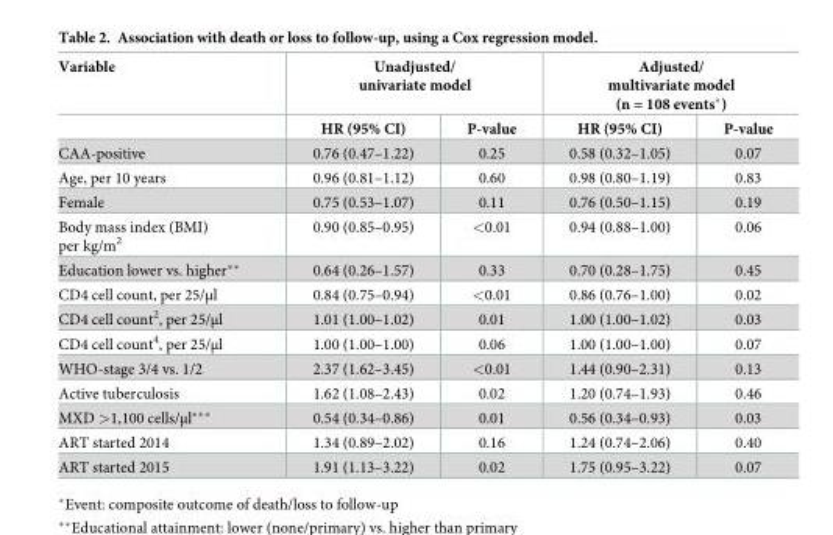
<table><thead><tr><td rowspan="2">Variable</td><td colspan="2">Unadjusted/ univariate model</td><td colspan="2">Adjusted/ multivariate model (n = 108 events*)</td></tr><tr><td>HR (95% CI)</td><td>P-value</td><td>HR (95% CI)</td><td>P-value</td></tr></thead><tbody><tr><td>CAA-positive</td><td>0.76 (0.47–1.22)</td><td>0.25</td><td>0.58 (0.32–1.05)</td><td>0.07</td></tr><tr><td>Age, per 10 years</td><td>0.96 (0.81–1.12)</td><td>0.60</td><td>0.98 (0.80–1.19)</td><td>0.83</td></tr><tr><td>Female</td><td>0.75 (0.53–1.07)</td><td>0.11</td><td>0.76 (0.50–1.15)</td><td>0.19</td></tr><tr><td>Body mass index (BMI) per kg/m<sup>2</sup></td><td>0.90 (0.85–0.95)</td><td>&lt;0.01</td><td>0.94 (0.88–1.00)</td><td>0.06</td></tr><tr><td>Education lower vs. higher**</td><td>0.64 (0.26–1.57)</td><td>0.33</td><td>0.70 (0.28–1.75)</td><td>0.45</td></tr><tr><td>CD4 cell count, per 25/μl</td><td>0.84 (0.75–0.94)</td><td>&lt;0.01</td><td>0.86 (0.76–1.00)</td><td>0.02</td></tr><tr><td>CD4 cell count<sup>2</sup>, per 25/μl</td><td>1.01 (1.00–1.02)</td><td>0.01</td><td>1.00 (1.00–1.02)</td><td>0.03</td></tr><tr><td>CD4 cell count<sup>4</sup>, per 25/μl</td><td>1.00 (1.00–1.00)</td><td>0.06</td><td>1.00 (1.00–1.00)</td><td>0.07</td></tr><tr><td>WHO-stage 3/4 vs. 1/2</td><td>2.37 (1.62–3.45)</td><td>&lt;0.01</td><td>1.44 (0.90–2.31)</td><td>0.13</td></tr><tr><td>Active tuberculosis</td><td>1.62 (1.08–2.43)</td><td>0.02</td><td>1.20 (0.74–1.93)</td><td>0.46</td></tr><tr><td>MXD &gt;1,100 cells/μl***</td><td>0.54 (0.34–0.86)</td><td>0.01</td><td>0.56 (0.34–0.93)</td><td>0.03</td></tr><tr><td>ART started 2014</td><td>1.34 (0.89–2.02)</td><td>0.16</td><td>1.24 (0.74–2.06)</td><td>0.40</td></tr><tr><td>ART started 2015</td><td>1.91 (1.13–3.22)</td><td>0.02</td><td>1.75 (0.95–3.22)</td><td>0.07</td></tr></tbody></table>